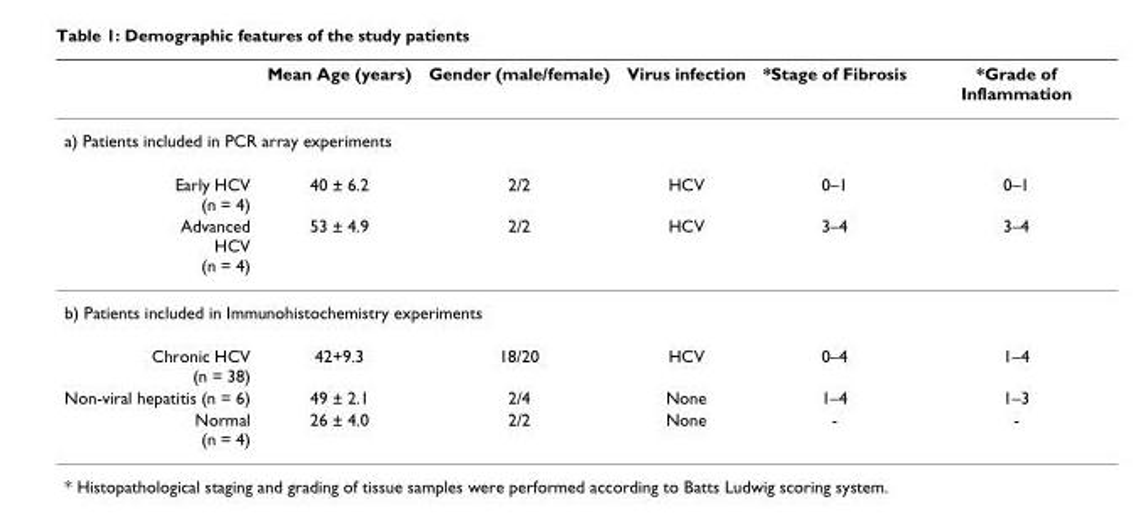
<table><thead><tr><td></td><td>Mean Age (years)</td><td>Gender (male/female)</td><td>Virus infection</td><td>*Stage of Fibrosis</td><td>*Grade of Inflammation</td></tr></thead><tbody><tr><td colspan="6">a) Patients included in PCR array experiments</td></tr><tr><td>Early HCV (n = 4)</td><td>40 ± 6.2</td><td>2/2</td><td>HCV</td><td>0–1</td><td>0–1</td></tr><tr><td>Advanced HCV (n = 4)</td><td>53 ± 4.9</td><td>2/2</td><td>HCV</td><td>3–4</td><td>3–4</td></tr><tr><td colspan="6">b) Patients included in Immunohistochemistry experiments</td></tr><tr><td>Chronic HCV (n = 38)</td><td>42+9.3</td><td>18/20</td><td>HCV</td><td>0–4</td><td>1–4</td></tr><tr><td>Non-viral hepatitis (n = 6)</td><td>49 ± 2.1</td><td>2/4</td><td>None</td><td>1–4</td><td>1–3</td></tr><tr><td>Normal (n = 4)</td><td>26 ± 4.0</td><td>2/2</td><td>None</td><td>-</td><td>-</td></tr></tbody></table>